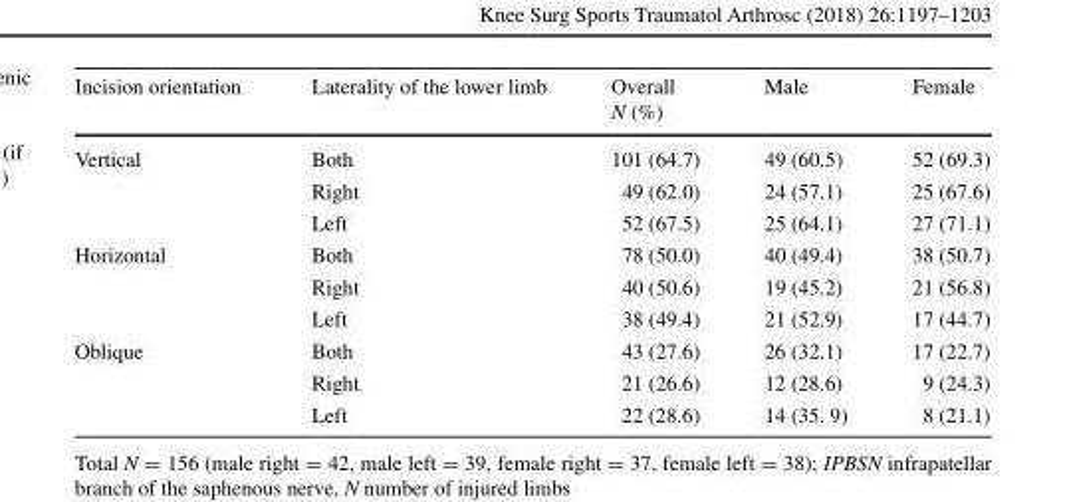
<table><thead><tr><td>Incision orientation</td><td>Laterality of the lower limb</td><td>Overall N (%)</td><td>Male</td><td>Female</td></tr></thead><tbody><tr><td rowspan="3">Vertical</td><td>Both</td><td>101 (64.7)</td><td>49 (60.5)</td><td>52 (69.3)</td></tr><tr><td>Right</td><td>49 (62.0)</td><td>24 (57.1)</td><td>25 (67.6)</td></tr><tr><td>Left</td><td>52 (67.5)</td><td>25 (64.1)</td><td>27 (71.1)</td></tr><tr><td rowspan="3">Horizontal</td><td>Both</td><td>78 (50.0)</td><td>40 (49.4)</td><td>38 (50.7)</td></tr><tr><td>Right</td><td>40 (50.6)</td><td>19 (45.2)</td><td>21 (56.8)</td></tr><tr><td>Left</td><td>38 (49.4)</td><td>21 (52.9)</td><td>17 (44.7)</td></tr><tr><td rowspan="3">Oblique</td><td>Both</td><td>43 (27.6)</td><td>26 (32.1)</td><td>17 (22.7)</td></tr><tr><td>Right</td><td>21 (26.6)</td><td>12 (28.6)</td><td>9 (24.3)</td></tr><tr><td>Left</td><td>22 (28.6)</td><td>14 (35. 9)</td><td>8 (21.1)</td></tr></tbody></table>